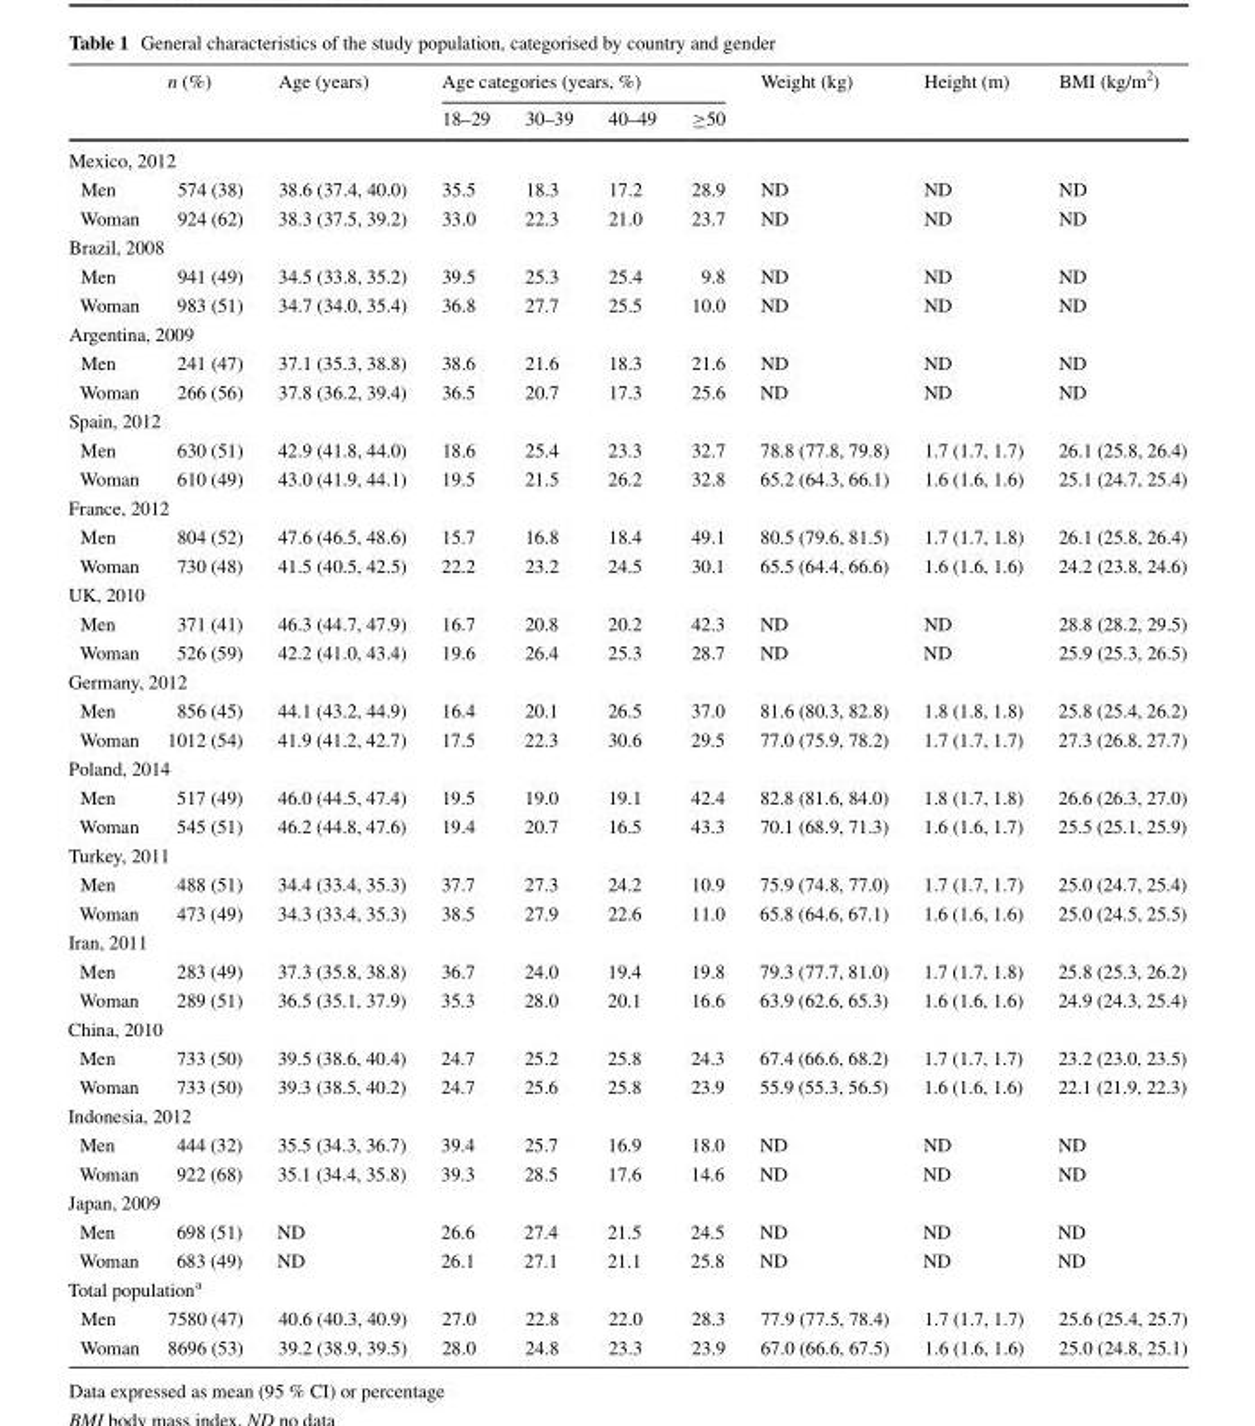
<table><thead><tr><td rowspan="2"></td><td rowspan="2">n (%)</td><td rowspan="2">Age (years)</td><td colspan="4">Age categories (years, %)</td><td rowspan="2">Weight (kg)</td><td rowspan="2">Height (m)</td><td rowspan="2">BMI (kg/m<sup>2</sup>)</td></tr><tr><td>18–29</td><td>30–39</td><td>40–49</td><td>≥50</td></tr></thead><tbody><tr><td colspan="10">Mexico, 2012</td></tr><tr><td>Men</td><td>574 (38)</td><td>38.6 (37.4, 40.0)</td><td>35.5</td><td>18.3</td><td>17.2</td><td>28.9</td><td>ND</td><td>ND</td><td>ND</td></tr><tr><td>Woman</td><td>924 (62)</td><td>38.3 (37.5, 39.2)</td><td>33.0</td><td>22.3</td><td>21.0</td><td>23.7</td><td>ND</td><td>ND</td><td>ND</td></tr><tr><td colspan="10">Brazil, 2008</td></tr><tr><td>Men</td><td>941 (49)</td><td>34.5 (33.8, 35.2)</td><td>39.5</td><td>25.3</td><td>25.4</td><td>9.8</td><td>ND</td><td>ND</td><td>ND</td></tr><tr><td>Woman</td><td>983 (51)</td><td>34.7 (34.0, 35.4)</td><td>36.8</td><td>27.7</td><td>25.5</td><td>10.0</td><td>ND</td><td>ND</td><td>ND</td></tr><tr><td colspan="10">Argentina, 2009</td></tr><tr><td>Men</td><td>241 (47)</td><td>37.1 (35.3, 38.8)</td><td>38.6</td><td>21.6</td><td>18.3</td><td>21.6</td><td>ND</td><td>ND</td><td>ND</td></tr><tr><td>Woman</td><td>266 (56)</td><td>37.8 (36.2, 39.4)</td><td>36.5</td><td>20.7</td><td>17.3</td><td>25.6</td><td>ND</td><td>ND</td><td>ND</td></tr><tr><td colspan="10">Spain, 2012</td></tr><tr><td>Men</td><td>630 (51)</td><td>42.9 (41.8, 44.0)</td><td>18.6</td><td>25.4</td><td>23.3</td><td>32.7</td><td>78.8 (77.8, 79.8)</td><td>1.7 (1.7, 1.7)</td><td>26.1 (25.8, 26.4)</td></tr><tr><td>Woman</td><td>610 (49)</td><td>43.0 (41.9, 44.1)</td><td>19.5</td><td>21.5</td><td>26.2</td><td>32.8</td><td>65.2 (64.3, 66.1)</td><td>1.6 (1.6, 1.6)</td><td>25.1 (24.7, 25.4)</td></tr><tr><td colspan="10">France, 2012</td></tr><tr><td>Men</td><td>804 (52)</td><td>47.6 (46.5, 48.6)</td><td>15.7</td><td>16.8</td><td>18.4</td><td>49.1</td><td>80.5 (79.6, 81.5)</td><td>1.7 (1.7, 1.8)</td><td>26.1 (25.8, 26.4)</td></tr><tr><td>Woman</td><td>730 (48)</td><td>41.5 (40.5, 42.5)</td><td>22.2</td><td>23.2</td><td>24.5</td><td>30.1</td><td>65.5 (64.4, 66.6)</td><td>1.6 (1.6, 1.6)</td><td>24.2 (23.8, 24.6)</td></tr><tr><td colspan="10">UK, 2010</td></tr><tr><td>Men</td><td>371 (41)</td><td>46.3 (44.7, 47.9)</td><td>16.7</td><td>20.8</td><td>20.2</td><td>42.3</td><td>ND</td><td>ND</td><td>28.8 (28.2, 29.5)</td></tr><tr><td>Woman</td><td>526 (59)</td><td>42.2 (41.0, 43.4)</td><td>19.6</td><td>26.4</td><td>25.3</td><td>28.7</td><td>ND</td><td>ND</td><td>25.9 (25.3, 26.5)</td></tr><tr><td colspan="10">Germany, 2012</td></tr><tr><td>Men</td><td>856 (45)</td><td>44.1 (43.2, 44.9)</td><td>16.4</td><td>20.1</td><td>26.5</td><td>37.0</td><td>81.6 (80.3, 82.8)</td><td>1.8 (1.8, 1.8)</td><td>25.8 (25.4, 26.2)</td></tr><tr><td>Woman</td><td>1012 (54)</td><td>41.9 (41.2, 42.7)</td><td>17.5</td><td>22.3</td><td>30.6</td><td>29.5</td><td>77.0 (75.9, 78.2)</td><td>1.7 (1.7, 1.7)</td><td>27.3 (26.8, 27.7)</td></tr><tr><td colspan="10">Poland, 2014</td></tr><tr><td>Men</td><td>517 (49)</td><td>46.0 (44.5, 47.4)</td><td>19.5</td><td>19.0</td><td>19.1</td><td>42.4</td><td>82.8 (81.6, 84.0)</td><td>1.8 (1.7, 1.8)</td><td>26.6 (26.3, 27.0)</td></tr><tr><td>Woman</td><td>545 (51)</td><td>46.2 (44.8, 47.6)</td><td>19.4</td><td>20.7</td><td>16.5</td><td>43.3</td><td>70.1 (68.9, 71.3)</td><td>1.6 (1.6, 1.7)</td><td>25.5 (25.1, 25.9)</td></tr><tr><td colspan="10">Turkey, 2011</td></tr><tr><td>Men</td><td>488 (51)</td><td>34.4 (33.4, 35.3)</td><td>37.7</td><td>27.3</td><td>24.2</td><td>10.9</td><td>75.9 (74.8, 77.0)</td><td>1.7 (1.7, 1.7)</td><td>25.0 (24.7, 25.4)</td></tr><tr><td>Woman</td><td>473 (49)</td><td>34.3 (33.4, 35.3)</td><td>38.5</td><td>27.9</td><td>22.6</td><td>11.0</td><td>65.8 (64.6, 67.1)</td><td>1.6 (1.6, 1.6)</td><td>25.0 (24.5, 25.5)</td></tr><tr><td colspan="10">Iran, 2011</td></tr><tr><td>Men</td><td>283 (49)</td><td>37.3 (35.8, 38.8)</td><td>36.7</td><td>24.0</td><td>19.4</td><td>19.8</td><td>79.3 (77.7, 81.0)</td><td>1.7 (1.7, 1.8)</td><td>25.8 (25.3, 26.2)</td></tr><tr><td>Woman</td><td>289 (51)</td><td>36.5 (35.1, 37.9)</td><td>35.3</td><td>28.0</td><td>20.1</td><td>16.6</td><td>63.9 (62.6, 65.3)</td><td>1.6 (1.6, 1.6)</td><td>24.9 (24.3, 25.4)</td></tr><tr><td colspan="10">China, 2010</td></tr><tr><td>Men</td><td>733 (50)</td><td>39.5 (38.6, 40.4)</td><td>24.7</td><td>25.2</td><td>25.8</td><td>24.3</td><td>67.4 (66.6, 68.2)</td><td>1.7 (1.7, 1.7)</td><td>23.2 (23.0, 23.5)</td></tr><tr><td>Woman</td><td>733 (50)</td><td>39.3 (38.5, 40.2)</td><td>24.7</td><td>25.6</td><td>25.8</td><td>23.9</td><td>55.9 (55.3, 56.5)</td><td>1.6 (1.6, 1.6)</td><td>22.1 (21.9, 22.3)</td></tr><tr><td colspan="10">Indonesia, 2012</td></tr><tr><td>Men</td><td>444 (32)</td><td>35.5 (34.3, 36.7)</td><td>39.4</td><td>25.7</td><td>16.9</td><td>18.0</td><td>ND</td><td>ND</td><td>ND</td></tr><tr><td>Woman</td><td>922 (68)</td><td>35.1 (34.4, 35.8)</td><td>39.3</td><td>28.5</td><td>17.6</td><td>14.6</td><td>ND</td><td>ND</td><td>ND</td></tr><tr><td colspan="10">Japan, 2009</td></tr><tr><td>Men</td><td>698 (51)</td><td>ND</td><td>26.6</td><td>27.4</td><td>21.5</td><td>24.5</td><td>ND</td><td>ND</td><td>ND</td></tr><tr><td>Woman</td><td>683 (49)</td><td>ND</td><td>26.1</td><td>27.1</td><td>21.1</td><td>25.8</td><td>ND</td><td>ND</td><td>ND</td></tr><tr><td colspan="10">Total population<sup>a</sup></td></tr><tr><td>Men</td><td>7580 (47)</td><td>40.6 (40.3, 40.9)</td><td>27.0</td><td>22.8</td><td>22.0</td><td>28.3</td><td>77.9 (77.5, 78.4)</td><td>1.7 (1.7, 1.7)</td><td>25.6 (25.4, 25.7)</td></tr><tr><td>Woman</td><td>8696 (53)</td><td>39.2 (38.9, 39.5)</td><td>28.0</td><td>24.8</td><td>23.3</td><td>23.9</td><td>67.0 (66.6, 67.5)</td><td>1.6 (1.6, 1.6)</td><td>25.0 (24.8, 25.1)</td></tr></tbody></table>